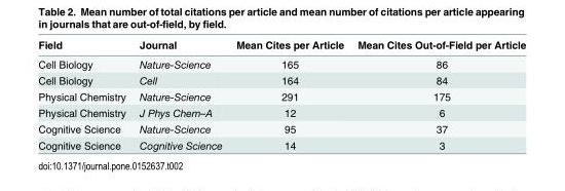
<table><thead><tr><td>Field</td><td>Journal</td><td>Mean Cites per Article</td><td>Mean Cites Out-of-Field per Article</td></tr></thead><tbody><tr><td>Cell Biology</td><td>Nature-Science</td><td>165</td><td>86</td></tr><tr><td>Cell Biology</td><td>Cell</td><td>164</td><td>84</td></tr><tr><td>Physical Chemistry</td><td>Nature-Science</td><td>291</td><td>175</td></tr><tr><td>Physical Chemistry</td><td>J Phys Chem–A</td><td>12</td><td>6</td></tr><tr><td>Cognitive Science</td><td>Nature-Science</td><td>95</td><td>37</td></tr><tr><td>Cognitive Science</td><td>Cognitive Science</td><td>14</td><td>3</td></tr></tbody></table>